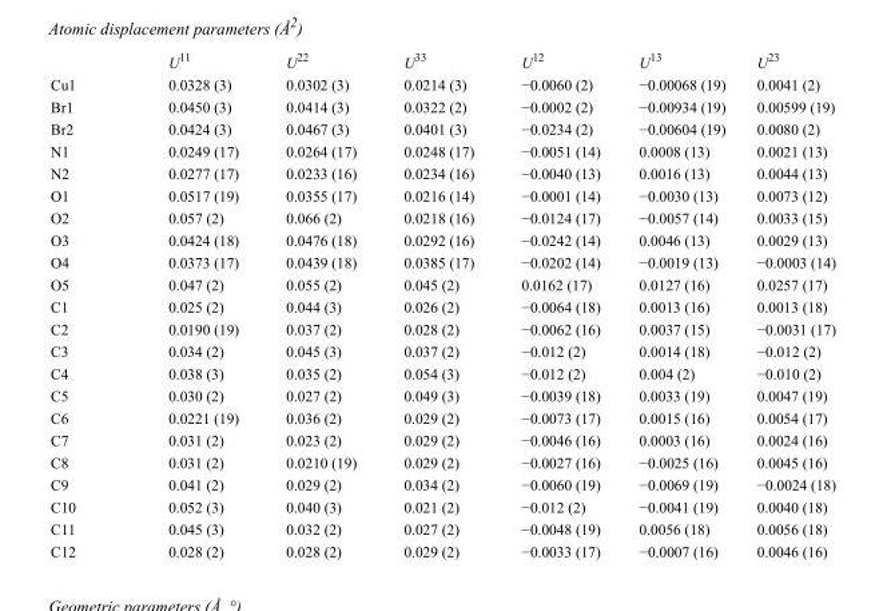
<table><thead><tr><td></td><td>U<sup>11</sup></td><td>U<sup>22</sup></td><td>U<sup>33</sup></td><td>U<sup>12</sup></td><td>U<sup>13</sup></td><td>U<sup>23</sup></td></tr></thead><tbody><tr><td>Cu1</td><td>0.0328 (3)</td><td>0.0302 (3)</td><td>0.0214 (3)</td><td>−0.0060 (2)</td><td>−0.00068 (19)</td><td>0.0041 (2)</td></tr><tr><td>Br1</td><td>0.0450 (3)</td><td>0.0414 (3)</td><td>0.0322 (2)</td><td>−0.0002 (2)</td><td>−0.00934 (19)</td><td>0.00599 (19)</td></tr><tr><td>Br2</td><td>0.0424 (3)</td><td>0.0467 (3)</td><td>0.0401 (3)</td><td>−0.0234 (2)</td><td>−0.00604 (19)</td><td>0.0080 (2)</td></tr><tr><td>N1</td><td>0.0249 (17)</td><td>0.0264 (17)</td><td>0.0248 (17)</td><td>−0.0051 (14)</td><td>0.0008 (13)</td><td>0.0021 (13)</td></tr><tr><td>N2</td><td>0.0277 (17)</td><td>0.0233 (16)</td><td>0.0234 (16)</td><td>−0.0040 (13)</td><td>0.0016 (13)</td><td>0.0044 (13)</td></tr><tr><td>O1</td><td>0.0517 (19)</td><td>0.0355 (17)</td><td>0.0216 (14)</td><td>−0.0001 (14)</td><td>−0.0030 (13)</td><td>0.0073 (12)</td></tr><tr><td>O2</td><td>0.057 (2)</td><td>0.066 (2)</td><td>0.0218 (16)</td><td>−0.0124 (17)</td><td>−0.0057 (14)</td><td>0.0033 (15)</td></tr><tr><td>O3</td><td>0.0424 (18)</td><td>0.0476 (18)</td><td>0.0292 (16)</td><td>−0.0242 (14)</td><td>0.0046 (13)</td><td>0.0029 (13)</td></tr><tr><td>O4</td><td>0.0373 (17)</td><td>0.0439 (18)</td><td>0.0385 (17)</td><td>−0.0202 (14)</td><td>−0.0019 (13)</td><td>−0.0003 (14)</td></tr><tr><td>O5</td><td>0.047 (2)</td><td>0.055 (2)</td><td>0.045 (2)</td><td>0.0162 (17)</td><td>0.0127 (16)</td><td>0.0257 (17)</td></tr><tr><td>C1</td><td>0.025 (2)</td><td>0.044 (3)</td><td>0.026 (2)</td><td>−0.0064 (18)</td><td>0.0013 (16)</td><td>0.0013 (18)</td></tr><tr><td>C2</td><td>0.0190 (19)</td><td>0.037 (2)</td><td>0.028 (2)</td><td>−0.0062 (16)</td><td>0.0037 (15)</td><td>−0.0031 (17)</td></tr><tr><td>C3</td><td>0.034 (2)</td><td>0.045 (3)</td><td>0.037 (2)</td><td>−0.012 (2)</td><td>0.0014 (18)</td><td>−0.012 (2)</td></tr><tr><td>C4</td><td>0.038 (3)</td><td>0.035 (2)</td><td>0.054 (3)</td><td>−0.012 (2)</td><td>0.004 (2)</td><td>−0.010 (2)</td></tr><tr><td>C5</td><td>0.030 (2)</td><td>0.027 (2)</td><td>0.049 (3)</td><td>−0.0039 (18)</td><td>0.0033 (19)</td><td>0.0047 (19)</td></tr><tr><td>C6</td><td>0.0221 (19)</td><td>0.036 (2)</td><td>0.029 (2)</td><td>−0.0073 (17)</td><td>0.0015 (16)</td><td>0.0054 (17)</td></tr><tr><td>C7</td><td>0.031 (2)</td><td>0.023 (2)</td><td>0.029 (2)</td><td>−0.0046 (16)</td><td>0.0003 (16)</td><td>0.0024 (16)</td></tr><tr><td>C8</td><td>0.031 (2)</td><td>0.0210 (19)</td><td>0.029 (2)</td><td>−0.0027 (16)</td><td>−0.0025 (16)</td><td>0.0045 (16)</td></tr><tr><td>C9</td><td>0.041 (2)</td><td>0.029 (2)</td><td>0.034 (2)</td><td>−0.0060 (19)</td><td>−0.0069 (19)</td><td>−0.0024 (18)</td></tr><tr><td>C10</td><td>0.052 (3)</td><td>0.040 (3)</td><td>0.021 (2)</td><td>−0.012 (2)</td><td>−0.0041 (19)</td><td>0.0040 (18)</td></tr><tr><td>C11</td><td>0.045 (3)</td><td>0.032 (2)</td><td>0.027 (2)</td><td>−0.0048 (19)</td><td>0.0056 (18)</td><td>0.0056 (18)</td></tr><tr><td>C12</td><td>0.028 (2)</td><td>0.028 (2)</td><td>0.029 (2)</td><td>−0.0033 (17)</td><td>−0.0007 (16)</td><td>0.0046 (16)</td></tr></tbody></table>